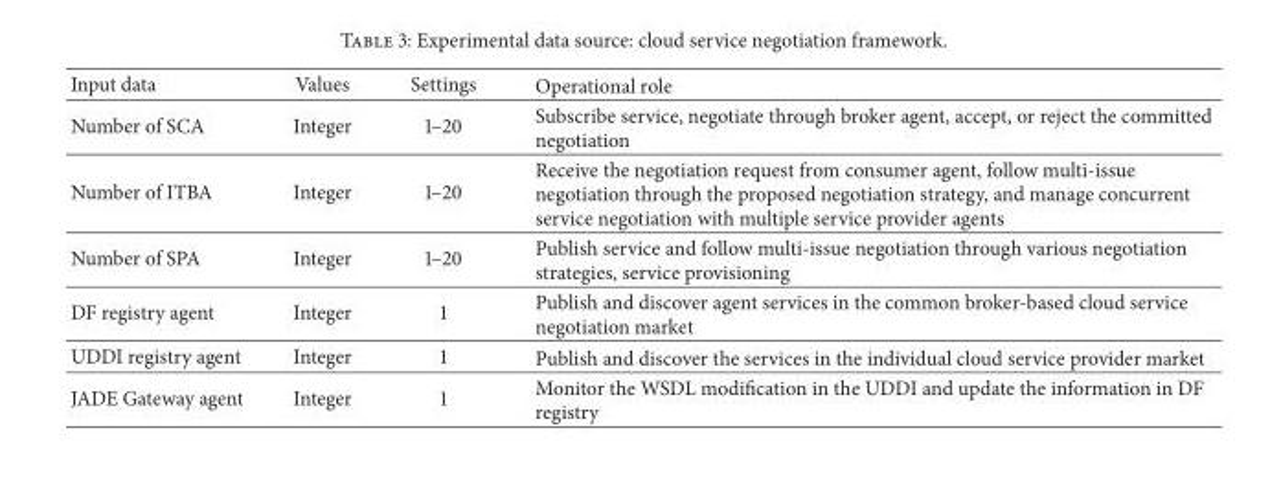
<table><thead><tr><td>Input data</td><td>Values</td><td>Settings</td><td>Operational role</td></tr></thead><tbody><tr><td>Number of SCA</td><td>Integer</td><td>1–20</td><td>Subscribe service, negotiate through broker agent, accept, or reject the committed negotiation</td></tr><tr><td>Number of ITBA</td><td>Integer</td><td>1–20</td><td>Receive the negotiation request from consumer agent, follow multi-issue negotiation through the proposed negotiation strategy, and manage concurrent service negotiation with multiple service provider agents</td></tr><tr><td>Number of SPA</td><td>Integer</td><td>1–20</td><td>Publish service and follow multi-issue negotiation through various negotiation strategies, service provisioning</td></tr><tr><td>DF registry agent</td><td>Integer</td><td>1</td><td>Publish and discover agent services in the common broker-based cloud service negotiation market</td></tr><tr><td>UDDI registry agent</td><td>Integer</td><td>1</td><td>Publish and discover the services in the individual cloud service provider market</td></tr><tr><td>JADE Gateway agent</td><td>Integer</td><td>1</td><td>Monitor the WSDL modification in the UDDI and update the information in DF registry</td></tr></tbody></table>